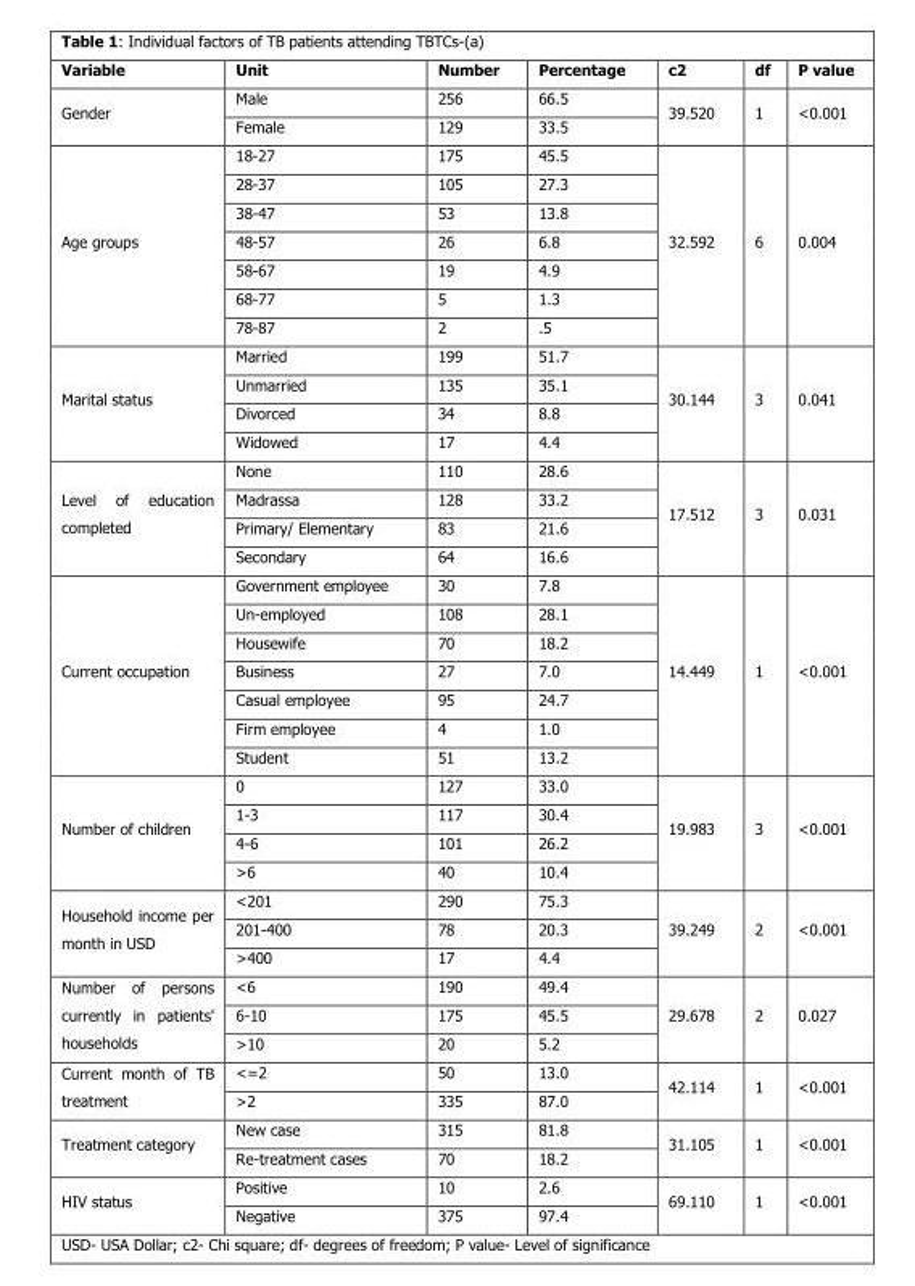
<table><thead><tr><td>Variable</td><td>Unit</td><td>Number</td><td>Percentage</td><td>c2</td><td>df</td><td>P value</td></tr></thead><tbody><tr><td rowspan="2">Gender</td><td>Male</td><td>256</td><td>66.5</td><td rowspan="2">39.520</td><td rowspan="2">1</td><td rowspan="2">&lt;0.001</td></tr><tr><td>Female</td><td>129</td><td>33.5</td></tr><tr><td rowspan="7">Age groups</td><td>18-27</td><td>175</td><td>45.5</td><td rowspan="7">32.592</td><td rowspan="7">6</td><td rowspan="7">0.004</td></tr><tr><td>28-37</td><td>105</td><td>27.3</td></tr><tr><td>38-47</td><td>53</td><td>13.8</td></tr><tr><td>48-57</td><td>26</td><td>6.8</td></tr><tr><td>58-67</td><td>19</td><td>4.9</td></tr><tr><td>68-77</td><td>5</td><td>1.3</td></tr><tr><td>78-87</td><td>2</td><td>.5</td></tr><tr><td rowspan="4">Marital status</td><td>Married</td><td>199</td><td>51.7</td><td rowspan="4">30.144</td><td rowspan="4">3</td><td rowspan="4">0.041</td></tr><tr><td>Unmarried</td><td>135</td><td>35.1</td></tr><tr><td>Divorced</td><td>34</td><td>8.8</td></tr><tr><td>Widowed</td><td>17</td><td>4.4</td></tr><tr><td rowspan="4">Level of education completed</td><td>None</td><td>110</td><td>28.6</td><td rowspan="4">17.512</td><td rowspan="4">3</td><td rowspan="4">0.031</td></tr><tr><td>Madrassa</td><td>128</td><td>33.2</td></tr><tr><td>Primary/ Elementary</td><td>83</td><td>21.6</td></tr><tr><td>Secondary</td><td>64</td><td>16.6</td></tr><tr><td rowspan="7">Current occupation</td><td>Government employee</td><td>30</td><td>7.8</td><td rowspan="7">14.449</td><td rowspan="7">1</td><td rowspan="7">&lt;0.001</td></tr><tr><td>Un-employed</td><td>108</td><td>28.1</td></tr><tr><td>Housewife</td><td>70</td><td>18.2</td></tr><tr><td>Business</td><td>27</td><td>7.0</td></tr><tr><td>Casual employee</td><td>95</td><td>24.7</td></tr><tr><td>Firm employee</td><td>4</td><td>1.0</td></tr><tr><td>Student</td><td>51</td><td>13.2</td></tr><tr><td rowspan="4">Number of children</td><td>0</td><td>127</td><td>33.0</td><td rowspan="4">19.983</td><td rowspan="4">3</td><td rowspan="4">&lt;0.001</td></tr><tr><td>1-3</td><td>117</td><td>30.4</td></tr><tr><td>4-6</td><td>101</td><td>26.2</td></tr><tr><td>&gt;6</td><td>40</td><td>10.4</td></tr><tr><td rowspan="3">Household income per month in USD</td><td>&lt;201</td><td>290</td><td>75.3</td><td rowspan="3">39.249</td><td rowspan="3">2</td><td rowspan="3">&lt;0.001</td></tr><tr><td>201-400</td><td>78</td><td>20.3</td></tr><tr><td>&gt;400</td><td>17</td><td>4.4</td></tr><tr><td rowspan="3">Number of persons currently in patients&#x27; households</td><td>&lt;6</td><td>190</td><td>49.4</td><td rowspan="3">29.678</td><td rowspan="3">2</td><td rowspan="3">0.027</td></tr><tr><td>6-10</td><td>175</td><td>45.5</td></tr><tr><td>&gt;10</td><td>20</td><td>5.2</td></tr><tr><td rowspan="2">Current month of TB treatment</td><td>&lt;=2</td><td>50</td><td>13.0</td><td rowspan="2">42.114</td><td rowspan="2">1</td><td rowspan="2">&lt;0.001</td></tr><tr><td>&gt;2</td><td>335</td><td>87.0</td></tr><tr><td rowspan="2">Treatment category</td><td>New case</td><td>315</td><td>81.8</td><td rowspan="2">31.105</td><td rowspan="2">1</td><td rowspan="2">&lt;0.001</td></tr><tr><td>Re-treatment cases</td><td>70</td><td>18.2</td></tr><tr><td rowspan="2">HIV status</td><td>Positive</td><td>10</td><td>2.6</td><td rowspan="2">69.110</td><td rowspan="2">1</td><td rowspan="2">&lt;0.001</td></tr><tr><td>Negative</td><td>375</td><td>97.4</td></tr></tbody></table>